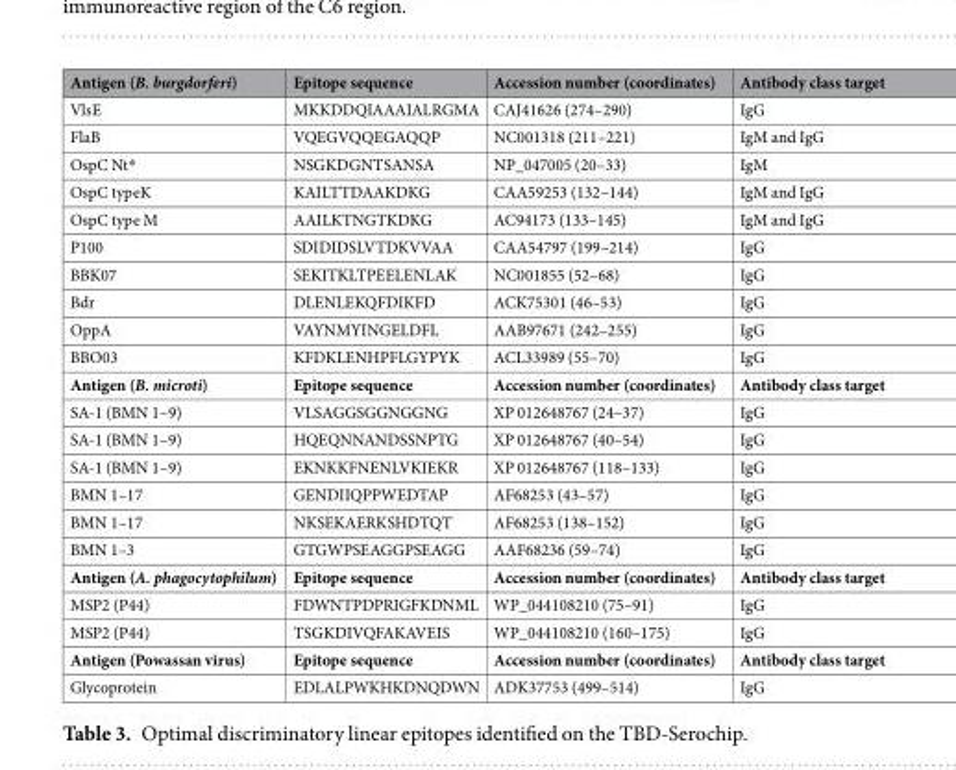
<table><thead><tr><td>Antigen (B. burgdorferi)</td><td>Epitope sequence</td><td>Accession number (coordinates)</td><td>Antibody class target</td></tr></thead><tbody><tr><td>VlsE</td><td>MKKDDQIAAAIALRGMA</td><td>CAJ41626 (274–290)</td><td>IgG</td></tr><tr><td>FlaB</td><td>VQEGVQQEGAQQP</td><td>NC001318 (211–221)</td><td>IgM and IgG</td></tr><tr><td>OspC Nt*</td><td>NSGKDGNTSANSA</td><td>NP_047005 (20–33)</td><td>IgM</td></tr><tr><td>OspC typeK</td><td>KAILTTDAAKDKG</td><td>CAA59253 (132–144)</td><td>IgM and IgG</td></tr><tr><td>OspC type M</td><td>AAILKTNGTKDKG</td><td>AC94173 (133–145)</td><td>IgM and IgG</td></tr><tr><td>P100</td><td>SDIDIDSLVTDKVVAA</td><td>CAA54797 (199–214)</td><td>IgG</td></tr><tr><td>BBK07</td><td>SEKITKLTPEELENLAK</td><td>NC001855 (52–68)</td><td>IgG</td></tr><tr><td>Bdr</td><td>DLENLEKQFDIKFD</td><td>ACK75301 (46–53)</td><td>IgG</td></tr><tr><td>OppA</td><td>VAYNMYINGELDFL</td><td>AAB97671 (242–255)</td><td>IgG</td></tr><tr><td>BBO03</td><td>KFDKLENHPFLGYPYK</td><td>ACL33989 (55–70)</td><td>IgG</td></tr><tr><td>Antigen (B. microti)</td><td>Epitope sequence</td><td>Accession number (coordinates)</td><td>Antibody class target</td></tr><tr><td>SA-1 (BMN 1–9)</td><td>VLSAGGSGGNGGNG</td><td>XP 012648767 (24–37)</td><td>IgG</td></tr><tr><td>SA-1 (BMN 1–9)</td><td>HQEQNNANDSSNPTG</td><td>XP 012648767 (40–54)</td><td>IgG</td></tr><tr><td>SA-1 (BMN 1–9)</td><td>EKNKKFNENLVKIEKR</td><td>XP 012648767 (118–133)</td><td>IgG</td></tr><tr><td>BMN 1–17</td><td>GENDIIQPPWEDTAP</td><td>AF68253 (43–57)</td><td>IgG</td></tr><tr><td>BMN 1–17</td><td>NKSEKAERKSHDTQT</td><td>AF68253 (138–152)</td><td>IgG</td></tr><tr><td>BMN 1–3</td><td>GTGWPSEAGGPSEAGG</td><td>AAF68236 (59–74)</td><td>IgG</td></tr><tr><td>Antigen (A. phagocytophilum)</td><td>Epitope sequence</td><td>Accession number (coordinates)</td><td>Antibody class target</td></tr><tr><td>MSP2 (P44)</td><td>FDWNTPDPRIGFKDNML</td><td>WP_044108210 (75–91)</td><td>IgG</td></tr><tr><td>MSP2 (P44)</td><td>TSGKDIVQFAKAVEIS</td><td>WP_044108210 (160–175)</td><td>IgG</td></tr><tr><td>Antigen (Powassan virus)</td><td>Epitope sequence</td><td>Accession number (coordinates)</td><td>Antibody class target</td></tr><tr><td>Glycoprotein</td><td>EDLALPWKHKDNQDWN</td><td>ADK37753 (499–514)</td><td>IgG</td></tr></tbody></table>